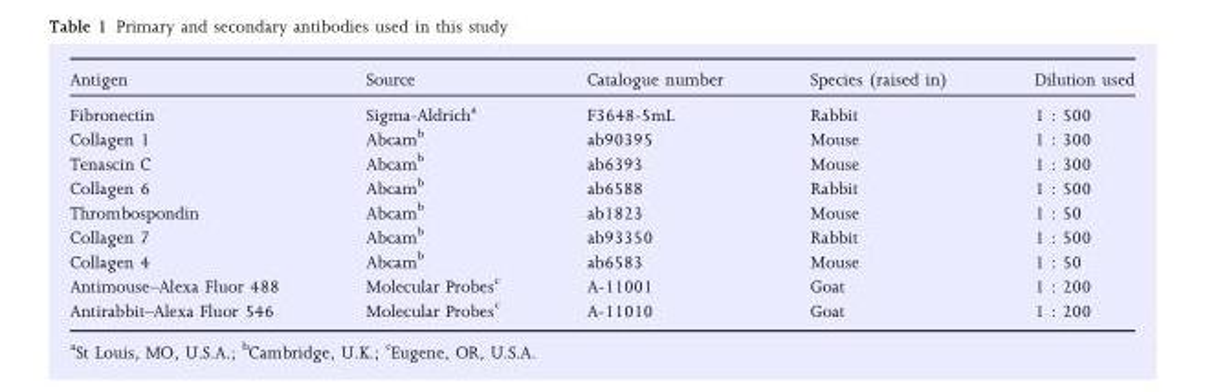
<table><thead><tr><td>Antigen</td><td>Source</td><td>Catalogue number</td><td>Species (raised in)</td><td>Dilution used</td></tr></thead><tbody><tr><td>Fibronectin</td><td>Sigma-Aldrich<sup>a</sup></td><td>F3648-5mL</td><td>Rabbit</td><td>1 : 500</td></tr><tr><td>Collagen 1</td><td>Abcam<sup>b</sup></td><td>ab90395</td><td>Mouse</td><td>1 : 300</td></tr><tr><td>Tenascin C</td><td>Abcam<sup>b</sup></td><td>ab6393</td><td>Mouse</td><td>1 : 300</td></tr><tr><td>Collagen 6</td><td>Abcam<sup>b</sup></td><td>ab6588</td><td>Rabbit</td><td>1 : 500</td></tr><tr><td>Thrombospondin</td><td>Abcam<sup>b</sup></td><td>ab1823</td><td>Mouse</td><td>1 : 50</td></tr><tr><td>Collagen 7</td><td>Abcam<sup>b</sup></td><td>ab93350</td><td>Rabbit</td><td>1 : 500</td></tr><tr><td>Collagen 4</td><td>Abcam<sup>b</sup></td><td>ab6583</td><td>Mouse</td><td>1 : 50</td></tr><tr><td>Antimouse–Alexa Fluor 488</td><td>Molecular Probes<sup>c</sup></td><td>A-11001</td><td>Goat</td><td>1 : 200</td></tr><tr><td>Antirabbit–Alexa Fluor 546</td><td>Molecular Probes<sup>c</sup></td><td>A-11010</td><td>Goat</td><td>1 : 200</td></tr></tbody></table>